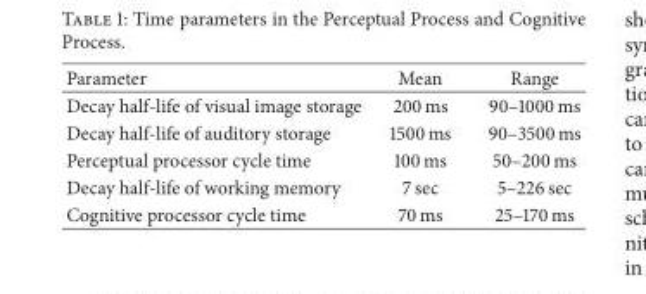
<table><thead><tr><td>Parameter</td><td>Mean</td><td>Range</td></tr></thead><tbody><tr><td>Decay half-life of visual image storage</td><td>200 ms</td><td>90–1000 ms</td></tr><tr><td>Decay half-life of auditory storage</td><td>1500 ms</td><td>90–3500 ms</td></tr><tr><td>Perceptual processor cycle time</td><td>100 ms</td><td>50–200 ms</td></tr><tr><td>Decay half-life of working memory</td><td>7 sec</td><td>5–226 sec</td></tr><tr><td>Cognitive processor cycle time</td><td>70 ms</td><td>25–170 ms</td></tr></tbody></table>